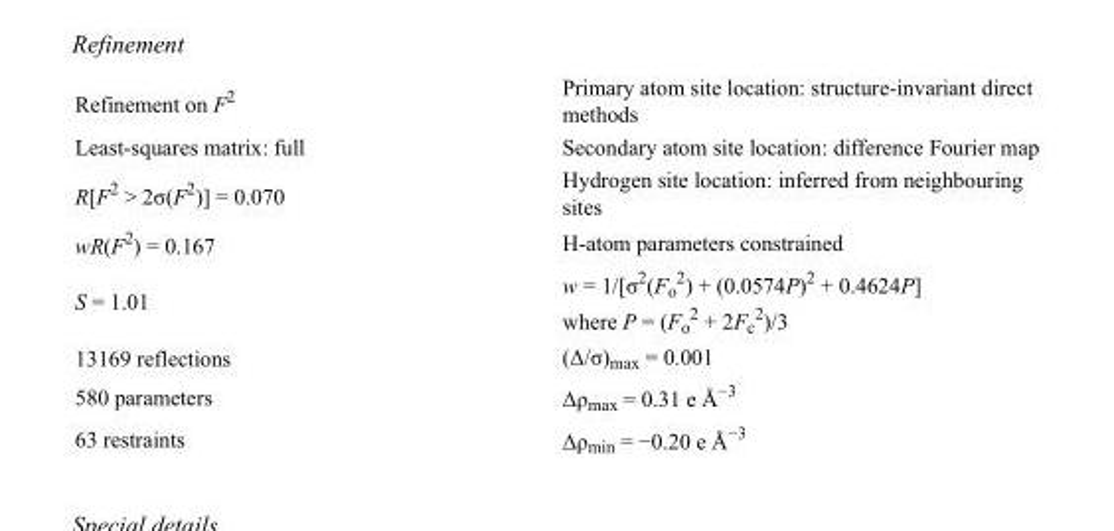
<table><tbody><tr><td>Refinement on F<sup>2</sup></td><td>Primary atom site location: structure-invariant direct methods</td></tr><tr><td>Least-squares matrix: full</td><td>Secondary atom site location: difference Fourier map</td></tr><tr><td>R[F<sup>2</sup> &gt; 2σ(F<sup>2</sup>)] = 0.070</td><td>Hydrogen site location: inferred from neighbouring sites</td></tr><tr><td>wR(F<sup>2</sup>) = 0.167</td><td>H-atom parameters constrained</td></tr><tr><td>S = 1.01</td><td>w = 1/[σ<sup>2</sup>(F<sub>o</sub> <sup>2</sup>) + (0.0574P)<sup>2</sup> + 0.4624P] where P = (F<sub>o</sub> <sup>2</sup> + 2F<sub>c</sub> <sup>2</sup>)/3</td></tr><tr><td>13169 reflections</td><td>(Δ/σ)<sub>max</sub> = 0.001</td></tr><tr><td>580 parameters</td><td>Δρ<sub>max</sub> = 0.31 e Å<sup>−3</sup></td></tr><tr><td>63 restraints</td><td>Δρ<sub>min</sub> = −0.20 e Å<sup>−3</sup></td></tr></tbody></table>